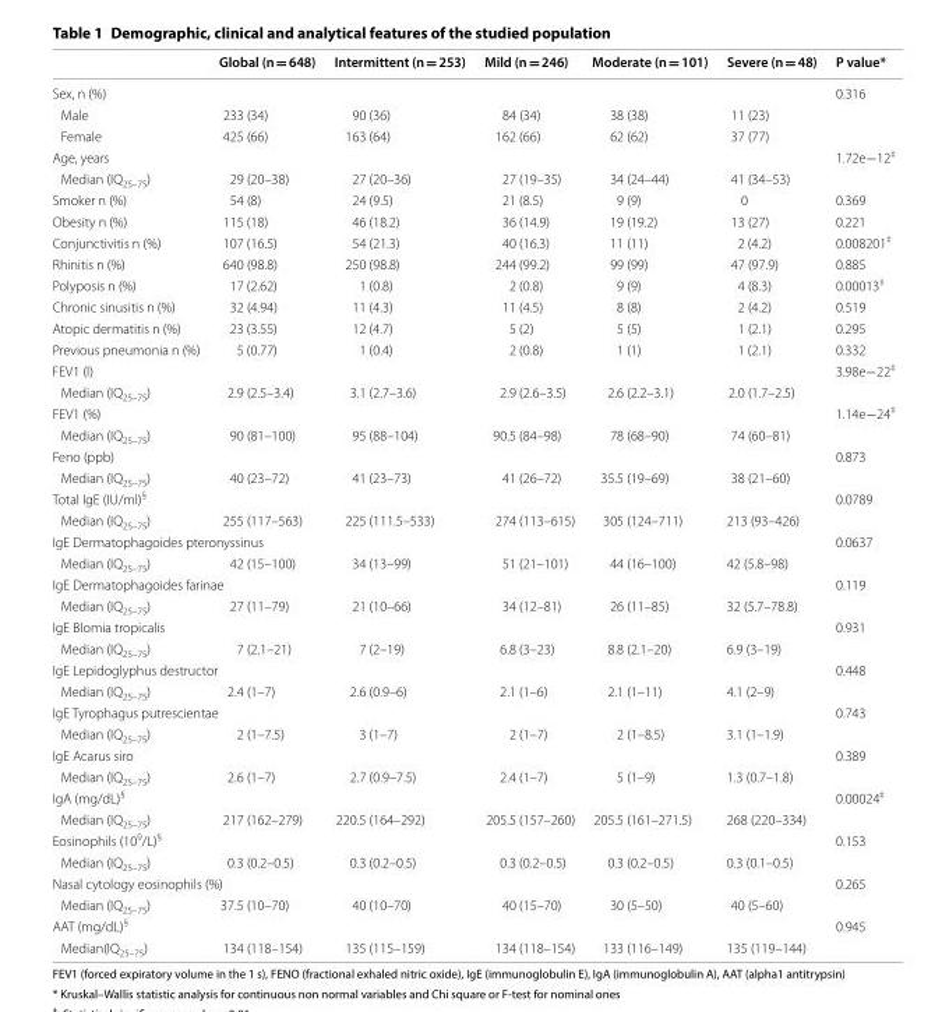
<table><thead><tr><td></td><td>Global (n = 648)</td><td>Intermittent (n = 253)</td><td>Mild (n = 246)</td><td>Moderate (n = 101)</td><td>Severe (n = 48)</td><td>P value*</td></tr></thead><tbody><tr><td colspan="6">Sex, n (%)</td><td rowspan="3">0.316</td></tr><tr><td>Male</td><td>233 (34)</td><td>90 (36)</td><td>84 (34)</td><td>38 (38)</td><td>11 (23)</td></tr><tr><td>Female</td><td>425 (66)</td><td>163 (64)</td><td>162 (66)</td><td>62 (62)</td><td>37 (77)</td></tr><tr><td colspan="6">Age, years</td><td rowspan="2">1.72e−12<sup>‡</sup></td></tr><tr><td>Median (IQ<sub>25–75</sub>)</td><td>29 (20–38)</td><td>27 (20–36)</td><td>27 (19–35)</td><td>34 (24–44)</td><td>41 (34–53)</td></tr><tr><td>Smoker n (%)</td><td>54 (8)</td><td>24 (9.5)</td><td>21 (8.5)</td><td>9 (9)</td><td>0</td><td>0.369</td></tr><tr><td>Obesity n (%)</td><td>115 (18)</td><td>46 (18.2)</td><td>36 (14.9)</td><td>19 (19.2)</td><td>13 (27)</td><td>0.221</td></tr><tr><td>Conjunctivitis n (%)</td><td>107 (16.5)</td><td>54 (21.3)</td><td>40 (16.3)</td><td>11 (11)</td><td>2 (4.2)</td><td>0.008201<sup>‡</sup></td></tr><tr><td>Rhinitis n (%)</td><td>640 (98.8)</td><td>250 (98.8)</td><td>244 (99.2)</td><td>99 (99)</td><td>47 (97.9)</td><td>0.885</td></tr><tr><td>Polyposis n (%)</td><td>17 (2.62)</td><td>1 (0.8)</td><td>2 (0.8)</td><td>9 (9)</td><td>4 (8.3)</td><td>0.00013<sup>‡</sup></td></tr><tr><td>Chronic sinusitis n (%)</td><td>32 (4.94)</td><td>11 (4.3)</td><td>11 (4.5)</td><td>8 (8)</td><td>2 (4.2)</td><td>0.519</td></tr><tr><td>Atopic dermatitis n (%)</td><td>23 (3.55)</td><td>12 (4.7)</td><td>5 (2)</td><td>5 (5)</td><td>1 (2.1)</td><td>0.295</td></tr><tr><td>Previous pneumonia n (%)</td><td>5 (0.77)</td><td>1 (0.4)</td><td>2 (0.8)</td><td>1 (1)</td><td>1 (2.1)</td><td>0.332</td></tr><tr><td colspan="6">FEV1 (l)</td><td rowspan="2">3.98e−22<sup>‡</sup></td></tr><tr><td>Median (IQ<sub>25–75</sub>)</td><td>2.9 (2.5–3.4)</td><td>3.1 (2.7–3.6)</td><td>2.9 (2.6–3.5)</td><td>2.6 (2.2–3.1)</td><td>2.0 (1.7–2.5)</td></tr><tr><td colspan="6">FEV1 (%)</td><td rowspan="2">1.14e−24<sup>‡</sup></td></tr><tr><td>Median (IQ<sub>25–75</sub>)</td><td>90 (81–100)</td><td>95 (88–104)</td><td>90.5 (84–98)</td><td>78 (68–90)</td><td>74 (60–81)</td></tr><tr><td colspan="6">Feno (ppb)</td><td rowspan="2">0.873</td></tr><tr><td>Median (IQ<sub>25–75</sub>)</td><td>40 (23–72)</td><td>41 (23–73)</td><td>41 (26–72)</td><td>35.5 (19–69)</td><td>38 (21–60)</td></tr><tr><td colspan="6">Total IgE (IU/ml)<sup>§</sup></td><td rowspan="2">0.0789</td></tr><tr><td>Median (IQ<sub>25–75</sub>)</td><td>255 (117–563)</td><td>225 (111.5–533)</td><td>274 (113–615)</td><td>305 (124–711)</td><td>213 (93–426)</td></tr><tr><td colspan="6">IgE Dermatophagoides pteronyssinus</td><td rowspan="2">0.0637</td></tr><tr><td>Median (IQ<sub>25–75</sub>)</td><td>42 (15–100)</td><td>34 (13–99)</td><td>51 (21–101)</td><td>44 (16–100)</td><td>42 (5.8–98)</td></tr><tr><td colspan="6">IgE Dermatophagoides farinae</td><td rowspan="2">0.119</td></tr><tr><td>Median (IQ<sub>25–75</sub>)</td><td>27 (11–79)</td><td>21 (10–66)</td><td>34 (12–81)</td><td>26 (11–85)</td><td>32 (5.7–78.8)</td></tr><tr><td colspan="6">IgE Blomia tropicalis</td><td rowspan="2">0.931</td></tr><tr><td>Median (IQ<sub>25–75</sub>)</td><td>7 (2.1–21)</td><td>7 (2–19)</td><td>6.8 (3–23)</td><td>8.8 (2.1–20)</td><td>6.9 (3–19)</td></tr><tr><td colspan="6">IgE Lepidoglyphus destructor</td><td rowspan="2">0.448</td></tr><tr><td>Median (IQ<sub>25–75</sub>)</td><td>2.4 (1–7)</td><td>2.6 (0.9–6)</td><td>2.1 (1–6)</td><td>2.1 (1–11)</td><td>4.1 (2–9)</td></tr><tr><td colspan="6">IgE Tyrophagus putrescientae</td><td rowspan="2">0.743</td></tr><tr><td>Median (IQ<sub>25–75</sub>)</td><td>2 (1–7.5)</td><td>3 (1–7)</td><td>2 (1–7)</td><td>2 (1–8.5)</td><td>3.1 (1–1.9)</td></tr><tr><td colspan="6">IgE Acarus siro</td><td rowspan="2">0.389</td></tr><tr><td>Median (IQ<sub>25–75</sub>)</td><td>2.6 (1–7)</td><td>2.7 (0.9–7.5)</td><td>2.4 (1–7)</td><td>5 (1–9)</td><td>1.3 (0.7–1.8)</td></tr><tr><td colspan="6">IgA (mg/dL)<sup>§</sup></td><td rowspan="2">0.00024<sup>‡</sup></td></tr><tr><td>Median (IQ<sub>25–75</sub>)</td><td>217 (162–279)</td><td>220.5 (164–292)</td><td>205.5 (157–260)</td><td>205.5 (161–271.5)</td><td>268 (220–334)</td></tr><tr><td colspan="6">Eosinophils (10<sup>9</sup>/L)<sup>§</sup></td><td rowspan="2">0.153</td></tr><tr><td>Median (IQ<sub>25–75</sub>)</td><td>0.3 (0.2–0.5)</td><td>0.3 (0.2–0.5)</td><td>0.3 (0.2–0.5)</td><td>0.3 (0.2–0.5)</td><td>0.3 (0.1–0.5)</td></tr><tr><td colspan="6">Nasal cytology eosinophils (%)</td><td rowspan="2">0.265</td></tr><tr><td>Median (IQ<sub>25–75</sub>)</td><td>37.5 (10–70)</td><td>40 (10–70)</td><td>40 (15–70)</td><td>30 (5–50)</td><td>40 (5–60)</td></tr><tr><td colspan="6">AAT (mg/dL)<sup>§</sup></td><td rowspan="2">0.945</td></tr><tr><td>Median(IQ<sub>25–75</sub>)</td><td>134 (118–154)</td><td>135 (115–159)</td><td>134 (118–154)</td><td>133 (116–149)</td><td>135 (119–144)</td></tr></tbody></table>